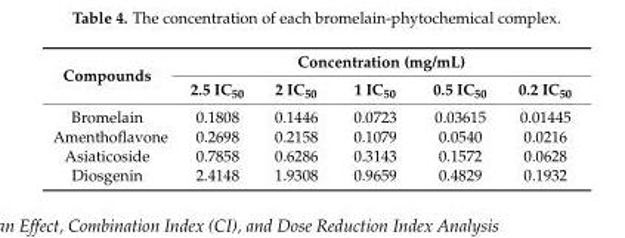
<table><thead><tr><td rowspan="2">Compounds</td><td colspan="5">Concentration (mg/mL)</td></tr><tr><td>2.5 IC<sub>50</sub></td><td>2 IC<sub>50</sub></td><td>1 IC<sub>50</sub></td><td>0.5 IC<sub>50</sub></td><td>0.2 IC<sub>50</sub></td></tr></thead><tbody><tr><td>Bromelain</td><td>0.1808</td><td>0.1446</td><td>0.0723</td><td>0.03615</td><td>0.01445</td></tr><tr><td>Amenthoflavone</td><td>0.2698</td><td>0.2158</td><td>0.1079</td><td>0.0540</td><td>0.0216</td></tr><tr><td>Asiaticoside</td><td>0.7858</td><td>0.6286</td><td>0.3143</td><td>0.1572</td><td>0.0628</td></tr><tr><td>Diosgenin</td><td>2.4148</td><td>1.9308</td><td>0.9659</td><td>0.4829</td><td>0.1932</td></tr></tbody></table>